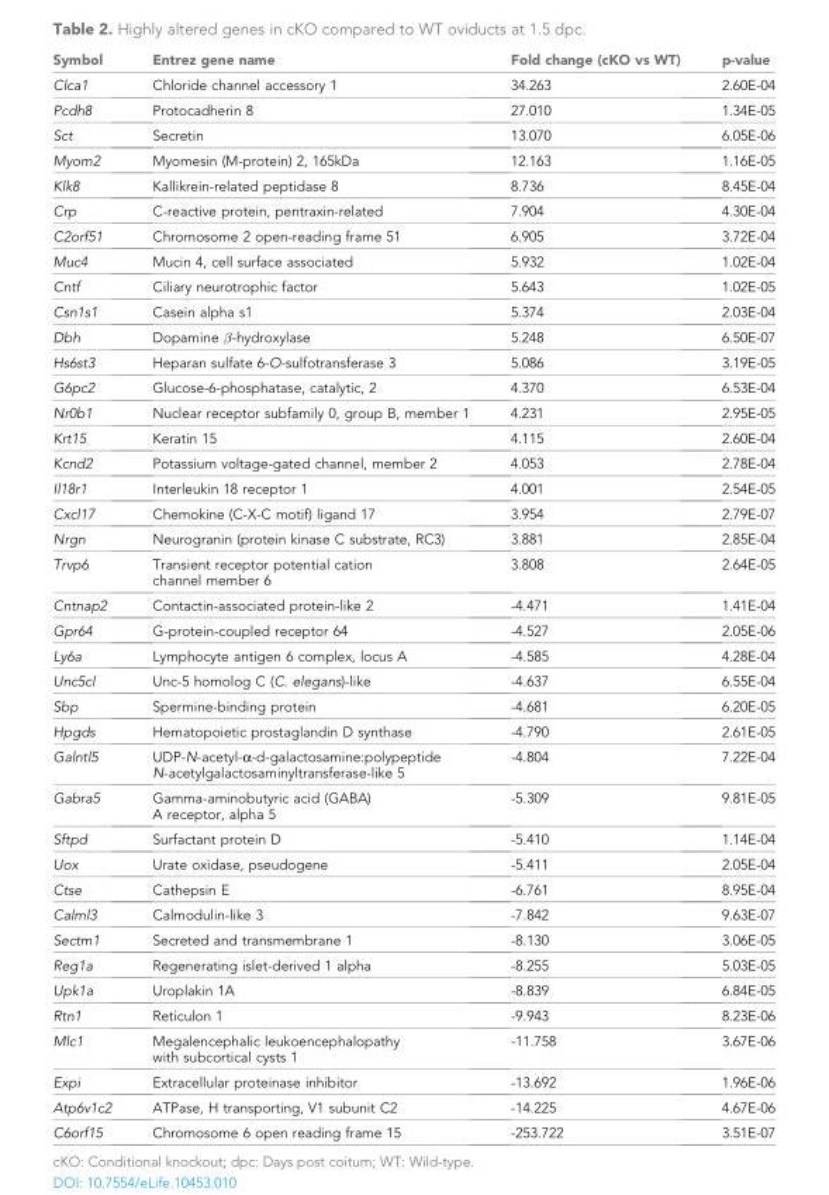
<table><thead><tr><td>Symbol</td><td>Entrez gene name</td><td>Fold change (cKO vs WT)</td><td>p-value</td></tr></thead><tbody><tr><td>Clca1</td><td>Chloride channel accessory 1</td><td>34.263</td><td>2.60E-04</td></tr><tr><td>Pcdh8</td><td>Protocadherin 8</td><td>27.010</td><td>1.34E-05</td></tr><tr><td>Sct</td><td>Secretin</td><td>13.070</td><td>6.05E-06</td></tr><tr><td>Myom2</td><td>Myomesin (M-protein) 2, 165kDa</td><td>12.163</td><td>1.16E-05</td></tr><tr><td>Klk8</td><td>Kallikrein-related peptidase 8</td><td>8.736</td><td>8.45E-04</td></tr><tr><td>Crp</td><td>C-reactive protein, pentraxin-related</td><td>7.904</td><td>4.30E-04</td></tr><tr><td>C2orf51</td><td>Chromosome 2 open-reading frame 51</td><td>6.905</td><td>3.72E-04</td></tr><tr><td>Muc4</td><td>Mucin 4, cell surface associated</td><td>5.932</td><td>1.02E-04</td></tr><tr><td>Cntf</td><td>Ciliary neurotrophic factor</td><td>5.643</td><td>1.02E-05</td></tr><tr><td>Csn1s1</td><td>Casein alpha s1</td><td>5.374</td><td>2.03E-04</td></tr><tr><td>Dbh</td><td>Dopamine β-hydroxylase</td><td>5.248</td><td>6.50E-07</td></tr><tr><td>Hs6st3</td><td>Heparan sulfate 6-O-sulfotransferase 3</td><td>5.086</td><td>3.19E-05</td></tr><tr><td>G6pc2</td><td>Glucose-6-phosphatase, catalytic, 2</td><td>4.370</td><td>6.53E-04</td></tr><tr><td>Nr0b1</td><td>Nuclear receptor subfamily 0, group B, member 1</td><td>4.231</td><td>2.95E-05</td></tr><tr><td>Krt15</td><td>Keratin 15</td><td>4.115</td><td>2.60E-04</td></tr><tr><td>Kcnd2</td><td>Potassium voltage-gated channel, member 2</td><td>4.053</td><td>2.78E-04</td></tr><tr><td>Il18r1</td><td>Interleukin 18 receptor 1</td><td>4.001</td><td>2.54E-05</td></tr><tr><td>Cxcl17</td><td>Chemokine (C-X-C motif) ligand 17</td><td>3.954</td><td>2.79E-07</td></tr><tr><td>Nrgn</td><td>Neurogranin (protein kinase C substrate, RC3)</td><td>3.881</td><td>2.85E-04</td></tr><tr><td>Trvp6</td><td>Transient receptor potential cation channel member 6</td><td>3.808</td><td>2.64E-05</td></tr><tr><td>Cntnap2</td><td>Contactin-associated protein-like 2</td><td>-4.471</td><td>1.41E-04</td></tr><tr><td>Gpr64</td><td>G-protein-coupled receptor 64</td><td>-4.527</td><td>2.05E-06</td></tr><tr><td>Ly6a</td><td>Lymphocyte antigen 6 complex, locus A</td><td>-4.585</td><td>4.28E-04</td></tr><tr><td>Unc5cl</td><td>Unc-5 homolog C (C. elegans)-like</td><td>-4.637</td><td>6.55E-04</td></tr><tr><td>Sbp</td><td>Spermine-binding protein</td><td>-4.681</td><td>6.20E-05</td></tr><tr><td>Hpgds</td><td>Hematopoietic prostaglandin D synthase</td><td>-4.790</td><td>2.61E-05</td></tr><tr><td>Galntl5</td><td>UDP-N-acetyl-α-d-galactosamine:polypeptide N-acetylgalactosaminyltransferase-like 5</td><td>-4.804</td><td>7.22E-04</td></tr><tr><td>Gabra5</td><td>Gamma-aminobutyric acid (GABA) A receptor, alpha 5</td><td>-5.309</td><td>9.81E-05</td></tr><tr><td>Sftpd</td><td>Surfactant protein D</td><td>-5.410</td><td>1.14E-04</td></tr><tr><td>Uox</td><td>Urate oxidase, pseudogene</td><td>-5.411</td><td>2.05E-04</td></tr><tr><td>Ctse</td><td>Cathepsin E</td><td>-6.761</td><td>8.95E-04</td></tr><tr><td>Calml3</td><td>Calmodulin-like 3</td><td>-7.842</td><td>9.63E-07</td></tr><tr><td>Sectm1</td><td>Secreted and transmembrane 1</td><td>-8.130</td><td>3.06E-05</td></tr><tr><td>Reg1a</td><td>Regenerating islet-derived 1 alpha</td><td>-8.255</td><td>5.03E-05</td></tr><tr><td>Upk1a</td><td>Uroplakin 1A</td><td>-8.839</td><td>6.84E-05</td></tr><tr><td>Rtn1</td><td>Reticulon 1</td><td>-9.943</td><td>8.23E-06</td></tr><tr><td>Mlc1</td><td>Megalencephalic leukoencephalopathy with subcortical cysts 1</td><td>-11.758</td><td>3.67E-06</td></tr><tr><td>Expi</td><td>Extracellular proteinase inhibitor</td><td>-13.692</td><td>1.96E-06</td></tr><tr><td>Atp6v1c2</td><td>ATPase, H transporting, V1 subunit C2</td><td>-14.225</td><td>4.67E-06</td></tr><tr><td>C6orf15</td><td>Chromosome 6 open reading frame 15</td><td>-253.722</td><td>3.51E-07</td></tr></tbody></table>